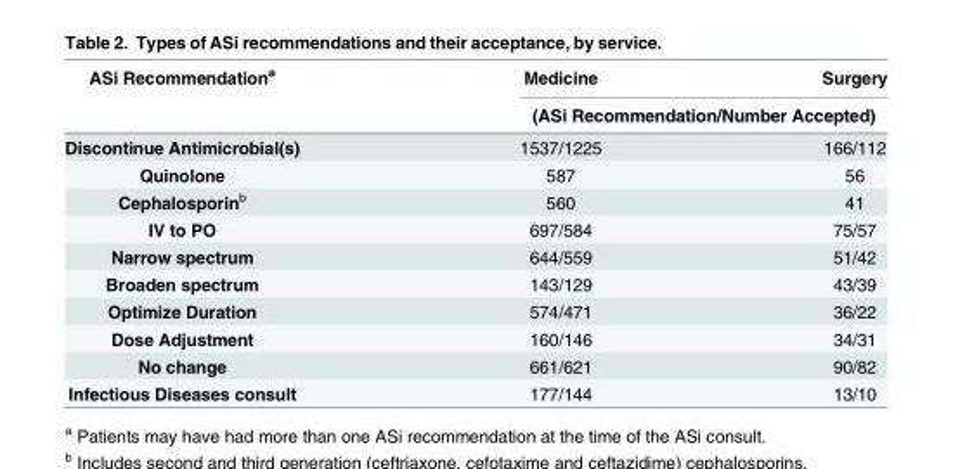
<table><thead><tr><td rowspan="2">ASi Recommendation<sup>a</sup></td><td>Medicine</td><td>Surgery</td></tr><tr><td colspan="2">(ASi Recommendation/Number Accepted)</td></tr></thead><tbody><tr><td>Discontinue Antimicrobial(s)</td><td>1537/1225</td><td>166/112</td></tr><tr><td>Quinolone</td><td>587</td><td>56</td></tr><tr><td>Cephalosporin<sup>b</sup></td><td>560</td><td>41</td></tr><tr><td>IV to PO</td><td>697/584</td><td>75/57</td></tr><tr><td>Narrow spectrum</td><td>644/559</td><td>51/42</td></tr><tr><td>Broaden spectrum</td><td>143/129</td><td>43/39</td></tr><tr><td>Optimize Duration</td><td>574/471</td><td>36/22</td></tr><tr><td>Dose Adjustment</td><td>160/146</td><td>34/31</td></tr><tr><td>No change</td><td>661/621</td><td>90/82</td></tr><tr><td>Infectious Diseases consult</td><td>177/144</td><td>13/10</td></tr></tbody></table>